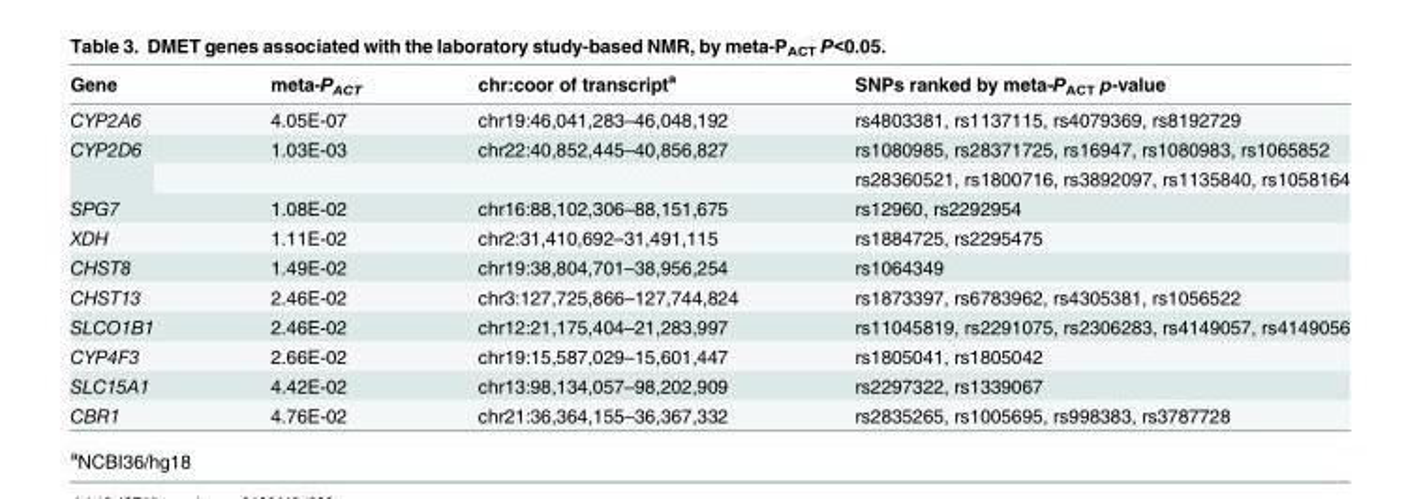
<table><thead><tr><td>Gene</td><td>meta-P<sub>ACT</sub></td><td>chr:coor of transcript<sup>a</sup></td><td>SNPs ranked by meta-P<sub>ACT</sub> p-value</td></tr></thead><tbody><tr><td>CYP2A6</td><td>4.05E-07</td><td>chr19:46,041,283–46,048,192</td><td>rs4803381, rs1137115, rs4079369, rs8192729</td></tr><tr><td rowspan="2">CYP2D6</td><td>1.03E-03</td><td>chr22:40,852,445–40,856,827</td><td>rs1080985, rs28371725, rs16947, rs1080983, rs1065852</td></tr><tr><td></td><td></td><td>rs28360521, rs1800716, rs3892097, rs1135840, rs1058164</td></tr><tr><td>SPG7</td><td>1.08E-02</td><td>chr16:88,102,306–88,151,675</td><td>rs12960, rs2292954</td></tr><tr><td>XDH</td><td>1.11E-02</td><td>chr2:31,410,692–31,491,115</td><td>rs1884725, rs2295475</td></tr><tr><td>CHST8</td><td>1.49E-02</td><td>chr19:38,804,701–38,956,254</td><td>rs1064349</td></tr><tr><td>CHST13</td><td>2.46E-02</td><td>chr3:127,725,866–127,744,824</td><td>rs1873397, rs6783962, rs4305381, rs1056522</td></tr><tr><td>SLCO1B1</td><td>2.46E-02</td><td>chr12:21,175,404–21,283,997</td><td>rs11045819, rs2291075, rs2306283, rs4149057, rs4149056</td></tr><tr><td>CYP4F3</td><td>2.66E-02</td><td>chr19:15,587,029–15,601,447</td><td>rs1805041, rs1805042</td></tr><tr><td>SLC15A1</td><td>4.42E-02</td><td>chr13:98,134,057–98,202,909</td><td>rs2297322, rs1339067</td></tr><tr><td>CBR1</td><td>4.76E-02</td><td>chr21:36,364,155–36,367,332</td><td>rs2835265, rs1005695, rs998383, rs3787728</td></tr></tbody></table>